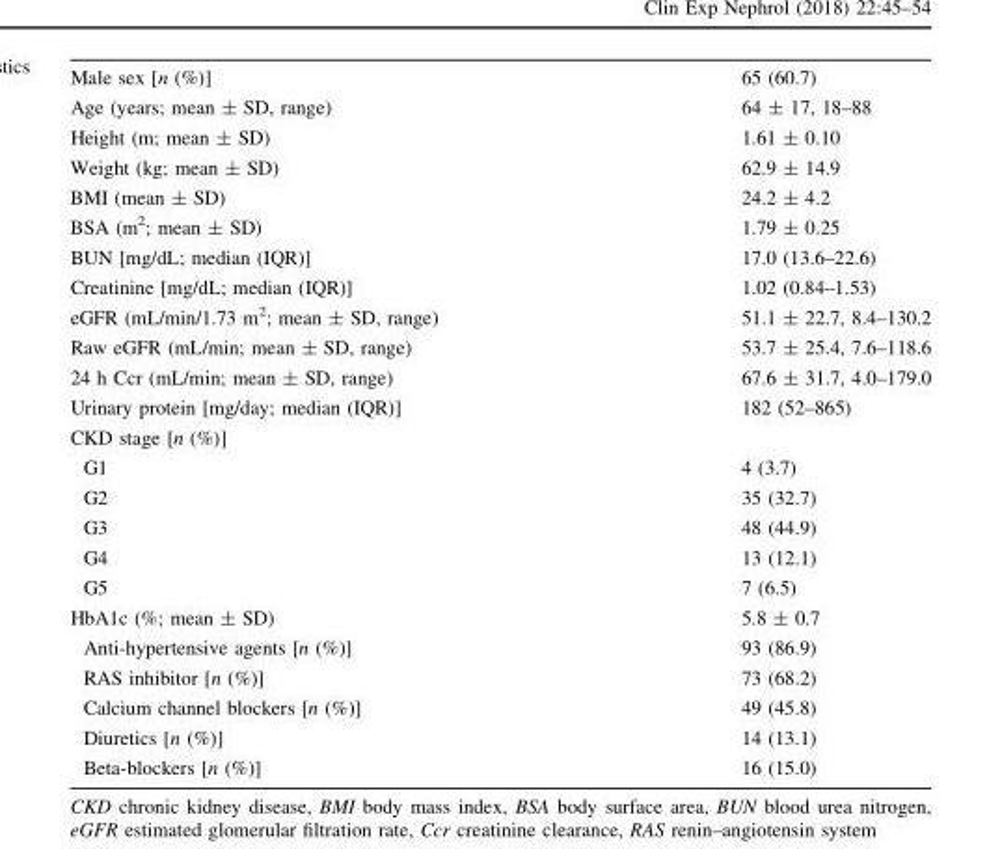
<table><tbody><tr><td>Male sex [n (%)]</td><td>65 (60.7)</td></tr><tr><td>Age (years; mean ± SD, range)</td><td>64 ± 17, 18–88</td></tr><tr><td>Height (m; mean ± SD)</td><td>1.61 ± 0.10</td></tr><tr><td>Weight (kg; mean ± SD)</td><td>62.9 ± 14.9</td></tr><tr><td>BMI (mean ± SD)</td><td>24.2 ± 4.2</td></tr><tr><td>BSA (m<sup>2</sup>; mean ± SD)</td><td>1.79 ± 0.25</td></tr><tr><td>BUN [mg/dL; median (IQR)]</td><td>17.0 (13.6–22.6)</td></tr><tr><td>Creatinine [mg/dL; median (IQR)]</td><td>1.02 (0.84–1.53)</td></tr><tr><td>eGFR (mL/min/1.73 m<sup>2</sup>; mean ± SD, range)</td><td>51.1 ± 22.7, 8.4–130.2</td></tr><tr><td>Raw eGFR (mL/min; mean ± SD, range)</td><td>53.7 ± 25.4, 7.6–118.6</td></tr><tr><td>24 h Ccr (mL/min; mean ± SD, range)</td><td>67.6 ± 31.7, 4.0–179.0</td></tr><tr><td>Urinary protein [mg/day; median (IQR)]</td><td>182 (52–865)</td></tr><tr><td colspan="2">CKD stage [n (%)]</td></tr><tr><td>G1</td><td>4 (3.7)</td></tr><tr><td>G2</td><td>35 (32.7)</td></tr><tr><td>G3</td><td>48 (44.9)</td></tr><tr><td>G4</td><td>13 (12.1)</td></tr><tr><td>G5</td><td>7 (6.5)</td></tr><tr><td>HbA1c (%; mean ± SD)</td><td>5.8 ± 0.7</td></tr><tr><td>Anti-hypertensive agents [n (%)]</td><td>93 (86.9)</td></tr><tr><td>RAS inhibitor [n (%)]</td><td>73 (68.2)</td></tr><tr><td>Calcium channel blockers [n (%)]</td><td>49 (45.8)</td></tr><tr><td>Diuretics [n (%)]</td><td>14 (13.1)</td></tr><tr><td>Beta-blockers [n (%)]</td><td>16 (15.0)</td></tr></tbody></table>